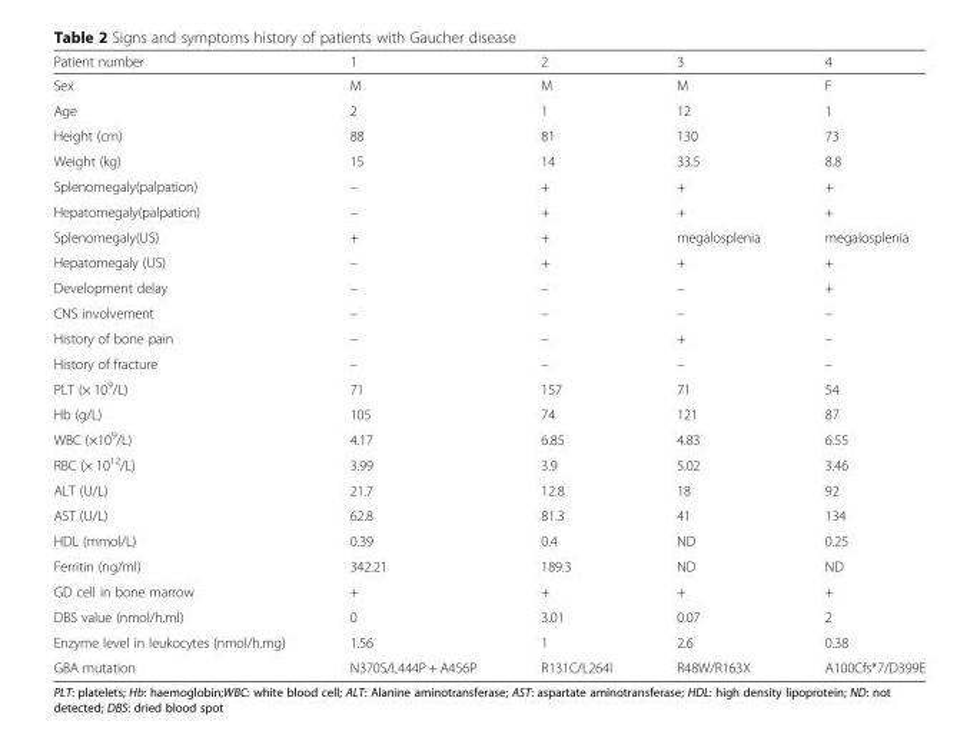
<table><thead><tr><td>Patient number</td><td>1</td><td>2</td><td>3</td><td>4</td></tr></thead><tbody><tr><td>Sex</td><td>M</td><td>M</td><td>M</td><td>F</td></tr><tr><td>Age</td><td>2</td><td>1</td><td>12</td><td>1</td></tr><tr><td>Height (cm)</td><td>88</td><td>81</td><td>130</td><td>73</td></tr><tr><td>Weight (kg)</td><td>15</td><td>14</td><td>33.5</td><td>8.8</td></tr><tr><td>Splenomegaly(palpation)</td><td>–</td><td>+</td><td>+</td><td>+</td></tr><tr><td>Hepatomegaly(palpation)</td><td>–</td><td>+</td><td>+</td><td>+</td></tr><tr><td>Splenomegaly(US)</td><td>+</td><td>+</td><td>megalosplenia</td><td>megalosplenia</td></tr><tr><td>Hepatomegaly (US)</td><td>–</td><td>+</td><td>+</td><td>+</td></tr><tr><td>Development delay</td><td>–</td><td>–</td><td>–</td><td>+</td></tr><tr><td>CNS involvement</td><td>–</td><td>–</td><td>–</td><td>–</td></tr><tr><td>History of bone pain</td><td>–</td><td>–</td><td>+</td><td>–</td></tr><tr><td>History of fracture</td><td>–</td><td>–</td><td>–</td><td>–</td></tr><tr><td>PLT (× 10<sup>9</sup>/L)</td><td>71</td><td>157</td><td>71</td><td>54</td></tr><tr><td>Hb (g/L)</td><td>105</td><td>74</td><td>121</td><td>87</td></tr><tr><td>WBC (×10<sup>9</sup>/L)</td><td>4.17</td><td>6.85</td><td>4.83</td><td>6.55</td></tr><tr><td>RBC (× 10<sup>12</sup>/L)</td><td>3.99</td><td>3.9</td><td>5.02</td><td>3.46</td></tr><tr><td>ALT (U/L)</td><td>21.7</td><td>12.8</td><td>18</td><td>92</td></tr><tr><td>AST (U/L)</td><td>62.8</td><td>81.3</td><td>41</td><td>134</td></tr><tr><td>HDL (mmol/L)</td><td>0.39</td><td>0.4</td><td>ND</td><td>0.25</td></tr><tr><td>Ferritin (ng/ml)</td><td>342.21</td><td>189.3</td><td>ND</td><td>ND</td></tr><tr><td>GD cell in bone marrow</td><td>+</td><td>+</td><td>+</td><td>+</td></tr><tr><td>DBS value (nmol/h.ml)</td><td>0</td><td>3.01</td><td>0.07</td><td>2</td></tr><tr><td>Enzyme level in leukocytes (nmol/h.mg)</td><td>1.56</td><td>1</td><td>2.6</td><td>0.38</td></tr><tr><td>GBA mutation</td><td>N370S/L444P + A456P</td><td>R131C/L264I</td><td>R48W/R163X</td><td>A100Cfs*7/D399E</td></tr></tbody></table>